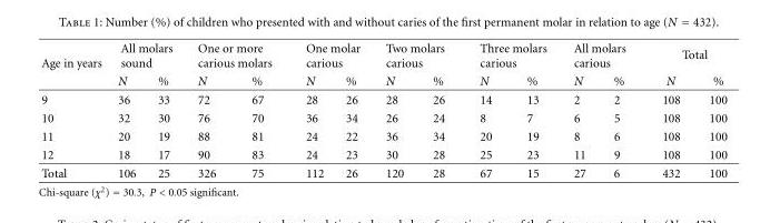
<table><thead><tr><td rowspan="2">Age in years</td><td colspan="2">All molars sound</td><td colspan="2">One or more carious molars</td><td colspan="2">One molar carious</td><td colspan="2">Two molars carious</td><td colspan="2">Three molars carious</td><td colspan="2">All molars carious</td><td colspan="2">Total</td></tr><tr><td>N</td><td>%</td><td>N</td><td>%</td><td>N</td><td>%</td><td>N</td><td>%</td><td>N</td><td>%</td><td>N</td><td>%</td><td>N</td><td>%</td></tr></thead><tbody><tr><td>9</td><td>36</td><td>33</td><td>72</td><td>67</td><td>28</td><td>26</td><td>28</td><td>26</td><td>14</td><td>13</td><td>2</td><td>2</td><td>108</td><td>100</td></tr><tr><td>10</td><td>32</td><td>30</td><td>76</td><td>70</td><td>36</td><td>34</td><td>26</td><td>24</td><td>8</td><td>7</td><td>6</td><td>5</td><td>108</td><td>100</td></tr><tr><td>11</td><td>20</td><td>19</td><td>88</td><td>81</td><td>24</td><td>22</td><td>36</td><td>34</td><td>20</td><td>19</td><td>8</td><td>6</td><td>108</td><td>100</td></tr><tr><td>12</td><td>18</td><td>17</td><td>90</td><td>83</td><td>24</td><td>23</td><td>30</td><td>28</td><td>25</td><td>23</td><td>11</td><td>9</td><td>108</td><td>100</td></tr><tr><td>Total</td><td>106</td><td>25</td><td>326</td><td>75</td><td>112</td><td>26</td><td>120</td><td>28</td><td>67</td><td>15</td><td>27</td><td>6</td><td>432</td><td>100</td></tr></tbody></table>